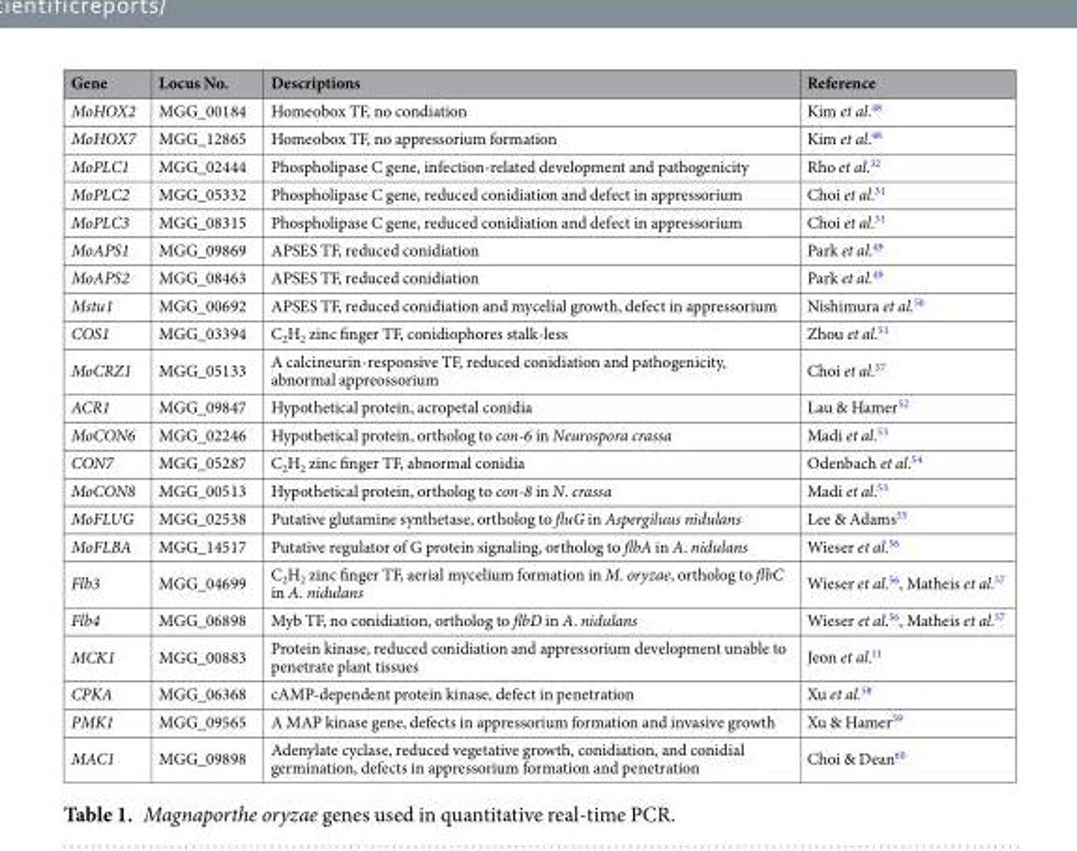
<table><thead><tr><td>Gene</td><td>Locus No.</td><td>Descriptions</td><td>Reference</td></tr></thead><tbody><tr><td>MoHOX2</td><td>MGG_00184</td><td>Homeobox TF, no condiation</td><td>Kim et al.<sup>48</sup></td></tr><tr><td>MoHOX7</td><td>MGG_12865</td><td>Homeobox TF, no appressorium formation</td><td>Kim et al.<sup>48</sup></td></tr><tr><td>MoPLC1</td><td>MGG_02444</td><td>Phospholipase C gene, infection-related development and pathogenicity</td><td>Rho et al.<sup>32</sup></td></tr><tr><td>MoPLC2</td><td>MGG_05332</td><td>Phospholipase C gene, reduced conidiation and defect in appressorium</td><td>Choi et al.<sup>31</sup></td></tr><tr><td>MoPLC3</td><td>MGG_08315</td><td>Phospholipase C gene, reduced conidiation and defect in appressorium</td><td>Choi et al.<sup>31</sup></td></tr><tr><td>MoAPS1</td><td>MGG_09869</td><td>APSES TF, reduced conidiation</td><td>Park et al.<sup>49</sup></td></tr><tr><td>MoAPS2</td><td>MGG_08463</td><td>APSES TF, reduced conidiation</td><td>Park et al.<sup>49</sup></td></tr><tr><td>Mstu1</td><td>MGG_00692</td><td>APSES TF, reduced conidiation and mycelial growth, defect in appressorium</td><td>Nishimura et al.<sup>50</sup></td></tr><tr><td>COS1</td><td>MGG_03394</td><td>C<sub>2</sub>H<sub>2</sub> zinc finger TF, conidiophores stalk-less</td><td>Zhou et al.<sup>51</sup></td></tr><tr><td>MoCRZ1</td><td>MGG_05133</td><td>A calcineurin-responsive TF, reduced conidiation and pathogenicity, abnormal appreossorium</td><td>Choi et al.<sup>37</sup></td></tr><tr><td>ACR1</td><td>MGG_09847</td><td>Hypothetical protein, acropetal conidia</td><td>Lau &amp; Hamer<sup>52</sup></td></tr><tr><td>MoCON6</td><td>MGG_02246</td><td>Hypothetical protein, ortholog to con-6 in Neurospora crassa</td><td>Madi et al.<sup>53</sup></td></tr><tr><td>CON7</td><td>MGG_05287</td><td>C<sub>2</sub>H<sub>2</sub> zinc finger TF, abnormal conidia</td><td>Odenbach et al.<sup>54</sup></td></tr><tr><td>MoCON8</td><td>MGG_00513</td><td>Hypothetical protein, ortholog to con-8 in N. crassa</td><td>Madi et al.<sup>53</sup></td></tr><tr><td>MoFLUG</td><td>MGG_02538</td><td>Putative glutamine synthetase, ortholog to fluG in Aspergiluus nidulans</td><td>Lee &amp; Adams<sup>55</sup></td></tr><tr><td>MoFLBA</td><td>MGG_14517</td><td>Putative regulator of G protein signaling, ortholog to flbA in A. nidulans</td><td>Wieser et al.<sup>56</sup></td></tr><tr><td>Flb3</td><td>MGG_04699</td><td>C<sub>2</sub>H<sub>2</sub> zinc finger TF, aerial mycelium formation in M. oryzae, ortholog to flbC in A. nidulans</td><td>Wieser et al.<sup>56</sup>, Matheis et al.<sup>57</sup></td></tr><tr><td>Flb4</td><td>MGG_06898</td><td>Myb TF, no conidiation, ortholog to flbD in A. nidulans</td><td>Wieser et al.<sup>56</sup>, Matheis et al.<sup>57</sup></td></tr><tr><td>MCK1</td><td>MGG_00883</td><td>Protein kinase, reduced conidiation and appressorium development unable to penetrate plant tissues</td><td>Jeon et al.<sup>11</sup></td></tr><tr><td>CPKA</td><td>MGG_06368</td><td>cAMP-dependent protein kinase, defect in penetration</td><td>Xu et al.<sup>58</sup></td></tr><tr><td>PMK1</td><td>MGG_09565</td><td>A MAP kinase gene, defects in appressorium formation and invasive growth</td><td>Xu &amp; Hamer<sup>59</sup></td></tr><tr><td>MAC1</td><td>MGG_09898</td><td>Adenylate cyclase, reduced vegetative growth, conidiation, and conidial germination, defects in appressorium formation and penetration</td><td>Choi &amp; Dean<sup>60</sup></td></tr></tbody></table>